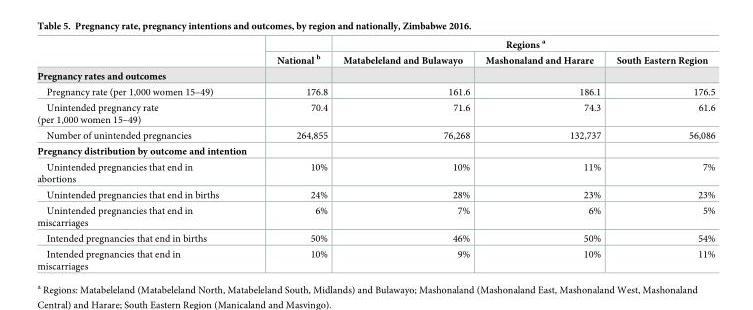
<table><thead><tr><td rowspan="2"></td><td rowspan="2">National <sup>b</sup></td><td colspan="3">Regions <sup>a</sup></td></tr><tr><td>Matabeleland and Bulawayo</td><td>Mashonaland and Harare</td><td>South Eastern Region</td></tr></thead><tbody><tr><td colspan="5">Pregnancy rates and outcomes</td></tr><tr><td>Pregnancy rate (per 1,000 women 15–49)</td><td>176.8</td><td>161.6</td><td>186.1</td><td>176.5</td></tr><tr><td>Unintended pregnancy rate (per 1,000 women 15–49)</td><td>70.4</td><td>71.6</td><td>74.3</td><td>61.6</td></tr><tr><td>Number of unintended pregnancies</td><td>264,855</td><td>76,268</td><td>132,737</td><td>56,086</td></tr><tr><td colspan="5">Pregnancy distribution by outcome and intention</td></tr><tr><td>Unintended pregnancies that end in abortions</td><td>10%</td><td>10%</td><td>11%</td><td>7%</td></tr><tr><td>Unintended pregnancies that end in births</td><td>24%</td><td>28%</td><td>23%</td><td>23%</td></tr><tr><td>Unintended pregnancies that end in miscarriages</td><td>6%</td><td>7%</td><td>6%</td><td>5%</td></tr><tr><td>Intended pregnancies that end in births</td><td>50%</td><td>46%</td><td>50%</td><td>54%</td></tr><tr><td>Intended pregnancies that end in miscarriages</td><td>10%</td><td>9%</td><td>10%</td><td>11%</td></tr></tbody></table>